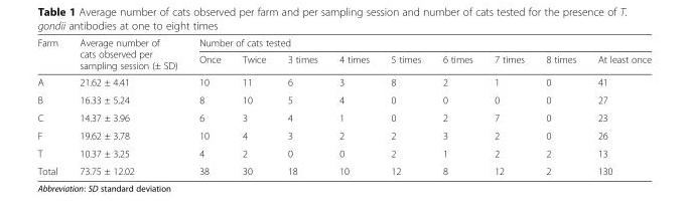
<table><thead><tr><td rowspan="2">Farm</td><td rowspan="2">Average number of cats observed per sampling session (± SD)</td><td colspan="9">Number of cats tested</td></tr><tr><td>Once</td><td>Twice</td><td>3 times</td><td>4 times</td><td>5 times</td><td>6 times</td><td>7 times</td><td>8 times</td><td>At least once</td></tr></thead><tbody><tr><td>A</td><td>21.62 ± 4.41</td><td>10</td><td>11</td><td>6</td><td>3</td><td>8</td><td>2</td><td>1</td><td>0</td><td>41</td></tr><tr><td>B</td><td>16.33 ± 5.24</td><td>8</td><td>10</td><td>5</td><td>4</td><td>0</td><td>0</td><td>0</td><td>0</td><td>27</td></tr><tr><td>C</td><td>14.37 ± 3.96</td><td>6</td><td>3</td><td>4</td><td>1</td><td>0</td><td>2</td><td>7</td><td>0</td><td>23</td></tr><tr><td>F</td><td>19.62 ± 3.78</td><td>10</td><td>4</td><td>3</td><td>2</td><td>2</td><td>3</td><td>2</td><td>0</td><td>26</td></tr><tr><td>T</td><td>10.37 ± 3.25</td><td>4</td><td>2</td><td>0</td><td>0</td><td>2</td><td>1</td><td>2</td><td>2</td><td>13</td></tr><tr><td>Total</td><td>73.75 ± 12.02</td><td>38</td><td>30</td><td>18</td><td>10</td><td>12</td><td>8</td><td>12</td><td>2</td><td>130</td></tr></tbody></table>